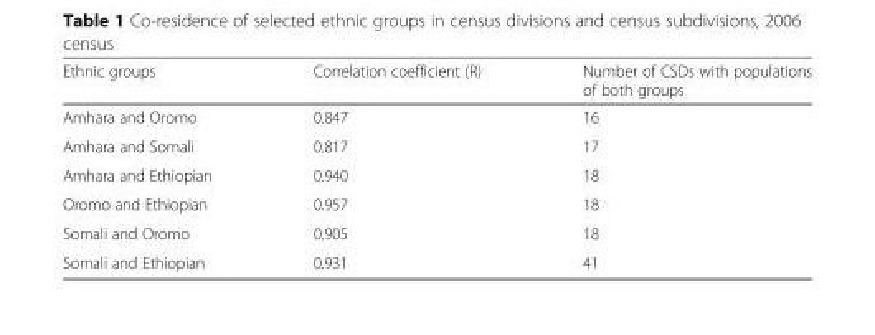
<table><thead><tr><td>Ethnic groups</td><td>Correlation coefficient (R)</td><td>Number of CSDs with populations of both groups</td></tr></thead><tbody><tr><td>Amhara and Oromo</td><td>0.847</td><td>16</td></tr><tr><td>Amhara and Somali</td><td>0.817</td><td>17</td></tr><tr><td>Amhara and Ethiopian</td><td>0.940</td><td>18</td></tr><tr><td>Oromo and Ethiopian</td><td>0.957</td><td>18</td></tr><tr><td>Somali and Oromo</td><td>0.905</td><td>18</td></tr><tr><td>Somali and Ethiopian</td><td>0.931</td><td>41</td></tr></tbody></table>